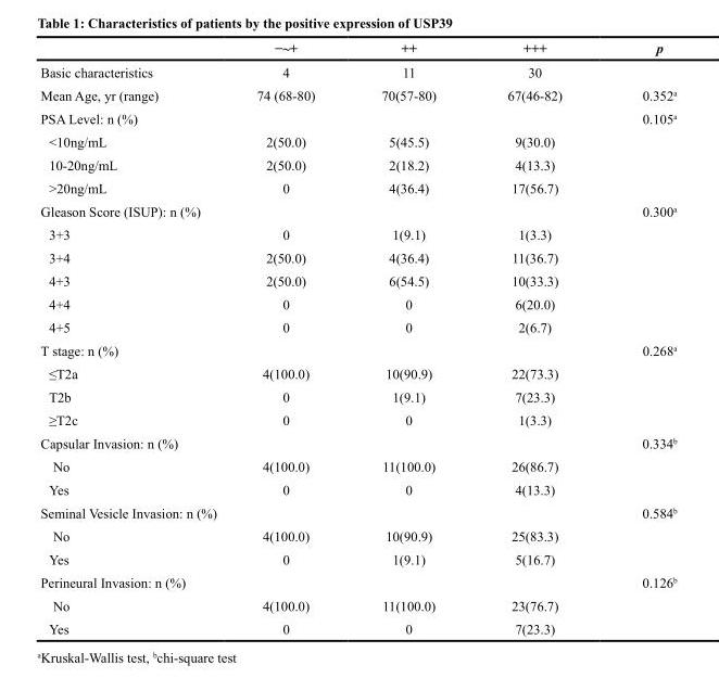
<table><thead><tr><td></td><td>−~+</td><td>++</td><td>+++</td><td>p</td></tr></thead><tbody><tr><td>Basic characteristics</td><td>4</td><td>11</td><td>30</td><td></td></tr><tr><td>Mean Age, yr (range)</td><td>74 (68-80)</td><td>70(57-80)</td><td>67(46-82)</td><td>0.352<sup>a</sup></td></tr><tr><td>PSA Level: n (%)</td><td></td><td></td><td></td><td>0.105<sup>a</sup></td></tr><tr><td>&lt;10ng/mL</td><td>2(50.0)</td><td>5(45.5)</td><td>9(30.0)</td><td></td></tr><tr><td>10-20ng/mL</td><td>2(50.0)</td><td>2(18.2)</td><td>4(13.3)</td><td></td></tr><tr><td>&gt;20ng/mL</td><td>0</td><td>4(36.4)</td><td>17(56.7)</td><td></td></tr><tr><td>Gleason Score (ISUP): n (%)</td><td></td><td></td><td></td><td>0.300<sup>a</sup></td></tr><tr><td>3+3</td><td>0</td><td>1(9.1)</td><td>1(3.3)</td><td></td></tr><tr><td>3+4</td><td>2(50.0)</td><td>4(36.4)</td><td>11(36.7)</td><td></td></tr><tr><td>4+3</td><td>2(50.0)</td><td>6(54.5)</td><td>10(33.3)</td><td></td></tr><tr><td>4+4</td><td>0</td><td>0</td><td>6(20.0)</td><td></td></tr><tr><td>4+5</td><td>0</td><td>0</td><td>2(6.7)</td><td></td></tr><tr><td>T stage: n (%)</td><td></td><td></td><td></td><td>0.268<sup>a</sup></td></tr><tr><td>≤T2a</td><td>4(100.0)</td><td>10(90.9)</td><td>22(73.3)</td><td></td></tr><tr><td>T2b</td><td>0</td><td>1(9.1)</td><td>7(23.3)</td><td></td></tr><tr><td>≥T2c</td><td>0</td><td>0</td><td>1(3.3)</td><td></td></tr><tr><td>Capsular Invasion: n (%)</td><td></td><td></td><td></td><td>0.334<sup>b</sup></td></tr><tr><td>No</td><td>4(100.0)</td><td>11(100.0)</td><td>26(86.7)</td><td></td></tr><tr><td>Yes</td><td>0</td><td>0</td><td>4(13.3)</td><td></td></tr><tr><td>Seminal Vesicle Invasion: n (%)</td><td></td><td></td><td></td><td>0.584<sup>b</sup></td></tr><tr><td>No</td><td>4(100.0)</td><td>10(90.9)</td><td>25(83.3)</td><td></td></tr><tr><td>Yes</td><td>0</td><td>1(9.1)</td><td>5(16.7)</td><td></td></tr><tr><td>Perineural Invasion: n (%)</td><td></td><td></td><td></td><td>0.126<sup>b</sup></td></tr><tr><td>No</td><td>4(100.0)</td><td>11(100.0)</td><td>23(76.7)</td><td></td></tr><tr><td>Yes</td><td>0</td><td>0</td><td>7(23.3)</td><td></td></tr></tbody></table>